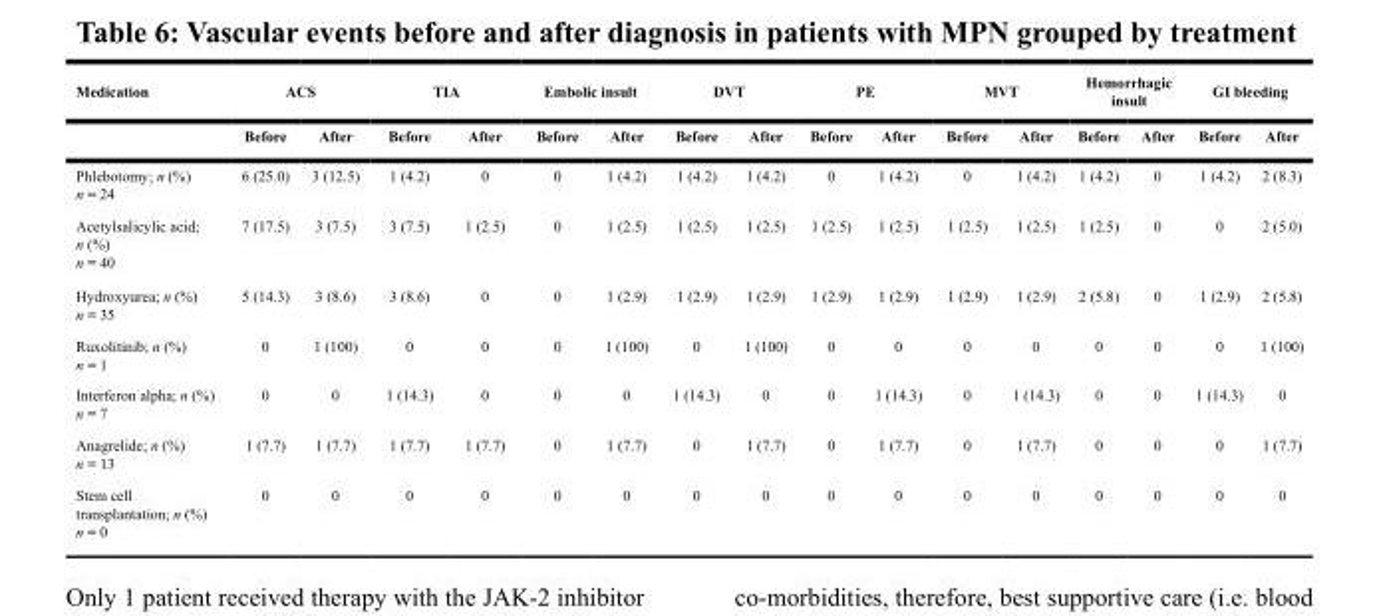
<table><thead><tr><td rowspan="2">Medication</td><td colspan="2">ACS</td><td colspan="2">TIA</td><td colspan="2">Embolic insult</td><td colspan="2">DVT</td><td colspan="2">PE</td><td colspan="2">MVT</td><td colspan="2">Hemorrhagic insult</td><td colspan="2">GI bleeding</td></tr><tr><td>Before</td><td>After</td><td>Before</td><td>After</td><td>Before</td><td>After</td><td>Before</td><td>After</td><td>Before</td><td>After</td><td>Before</td><td>After</td><td>Before</td><td>After</td><td>Before</td><td>After</td></tr></thead><tbody><tr><td>Phlebotomy; n (%) n = 24</td><td>6 (25.0)</td><td>3 (12.5)</td><td>1 (4.2)</td><td>0</td><td>0</td><td>1 (4.2)</td><td>1 (4.2)</td><td>1 (4.2)</td><td>0</td><td>1 (4.2)</td><td>0</td><td>1 (4.2)</td><td>1 (4.2)</td><td>0</td><td>1 (4.2)</td><td>2 (8.3)</td></tr><tr><td>Acetylsalicylic acid; n (%) n = 40</td><td>7 (17.5)</td><td>3 (7.5)</td><td>3 (7.5)</td><td>1 (2.5)</td><td>0</td><td>1 (2.5)</td><td>1 (2.5)</td><td>1 (2.5)</td><td>1 (2.5)</td><td>1 (2.5)</td><td>1 (2.5)</td><td>1 (2.5)</td><td>1 (2.5)</td><td>0</td><td>0</td><td>2 (5.0)</td></tr><tr><td>Hydroxyurea; n (%) n = 35</td><td>5 (14.3)</td><td>3 (8.6)</td><td>3 (8.6)</td><td>0</td><td>0</td><td>1 (2.9)</td><td>1 (2.9)</td><td>1 (2.9)</td><td>1 (2.9)</td><td>1 (2.9)</td><td>1 (2.9)</td><td>1 (2.9)</td><td>2 (5.8)</td><td>0</td><td>1 (2.9)</td><td>2 (5.8)</td></tr><tr><td>Ruxolitinib; n (%) n = 1</td><td>0</td><td>1 (100)</td><td>0</td><td>0</td><td>0</td><td>1 (100)</td><td>0</td><td>1 (100)</td><td>0</td><td>0</td><td>0</td><td>0</td><td>0</td><td>0</td><td>0</td><td>1 (100)</td></tr><tr><td>Interferon alpha; n (%) n = 7</td><td>0</td><td>0</td><td>1 (14.3)</td><td>0</td><td>0</td><td>0</td><td>1 (14.3)</td><td>0</td><td>0</td><td>1 (14.3)</td><td>0</td><td>1 (14.3)</td><td>0</td><td>0</td><td>1 (14.3)</td><td>0</td></tr><tr><td>Anagrelide; n (%) n = 13</td><td>1 (7.7)</td><td>1 (7.7)</td><td>1 (7.7)</td><td>1 (7.7)</td><td>0</td><td>1 (7.7)</td><td>0</td><td>1 (7.7)</td><td>0</td><td>1 (7.7)</td><td>0</td><td>1 (7.7)</td><td>0</td><td>0</td><td>0</td><td>1 (7.7)</td></tr><tr><td>Stem cell transplantation; n (%) n = 0</td><td>0</td><td>0</td><td>0</td><td>0</td><td>0</td><td>0</td><td>0</td><td>0</td><td>0</td><td>0</td><td>0</td><td>0</td><td>0</td><td>0</td><td>0</td><td>0</td></tr></tbody></table>